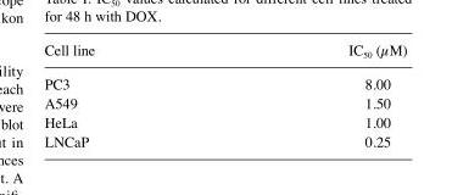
<table><thead><tr><td>Cell line</td><td>IC<sub>50</sub> (µM)</td></tr></thead><tbody><tr><td>PC3</td><td>8.00</td></tr><tr><td>A549</td><td>1.50</td></tr><tr><td>HeLa</td><td>1.00</td></tr><tr><td>LNCaP</td><td>0.25</td></tr></tbody></table>